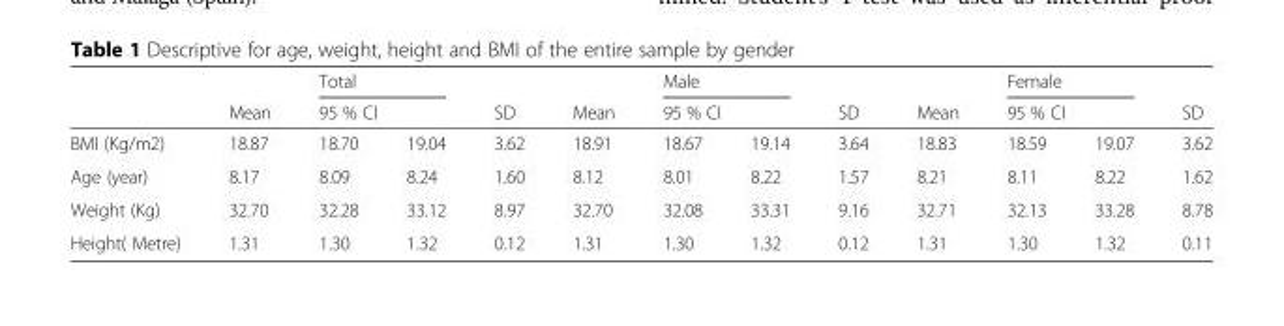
<table><thead><tr><td rowspan="3">BMI (Kg/m2)</td><td rowspan="3">Mean 18.87</td><td rowspan="2" colspan="2">Total 95 % CI</td><td rowspan="3">SD 3.62</td><td rowspan="3">Mean 18.91</td><td rowspan="2" colspan="2">Male 95 % CI</td><td rowspan="3">SD 3.64</td><td rowspan="3">Mean 18.83</td><td rowspan="2" colspan="2">Female 95 % CI</td><td rowspan="3">SD 3.62</td></tr><tr></tr><tr><td>18.70</td><td>19.04</td><td>18.67</td><td>19.14</td><td>18.59</td><td>19.07</td></tr></thead><tbody><tr><td>Age (year)</td><td>8.17</td><td>8.09</td><td>8.24</td><td>1.60</td><td>8.12</td><td>8.01</td><td>8.22</td><td>1.57</td><td>8.21</td><td>8.11</td><td>8.22</td><td>1.62</td></tr><tr><td>Weight (Kg)</td><td>32.70</td><td>32.28</td><td>33.12</td><td>8.97</td><td>32.70</td><td>32.08</td><td>33.31</td><td>9.16</td><td>32.71</td><td>32.13</td><td>33.28</td><td>8.78</td></tr><tr><td>Height( Metre)</td><td>1.31</td><td>1.30</td><td>1.32</td><td>0.12</td><td>1.31</td><td>1.30</td><td>1.32</td><td>0.12</td><td>1.31</td><td>1.30</td><td>1.32</td><td>0.11</td></tr></tbody></table>